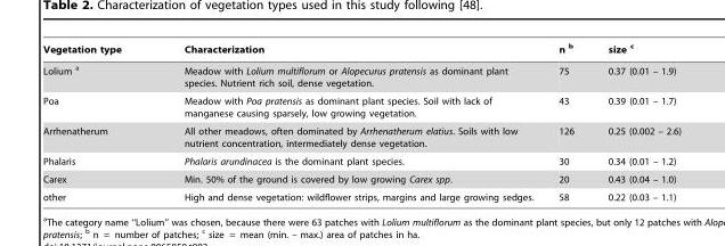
<table><thead><tr><td>Vegetation type</td><td>Characterization</td><td>n <sup>b</sup></td><td>size <sup>c</sup></td></tr></thead><tbody><tr><td>Lolium a</td><td>Meadow with Lolium multiflorum or Alopecurus pratensis as dominant plant species. Nutrient rich soil, dense vegetation.</td><td>75</td><td>0.37 (0.01 – 1.9)</td></tr><tr><td>Poa</td><td>Meadow with Poa pratensis as dominant plant species. Soil with lack of manganese causing sparsely, low growing vegetation.</td><td>43</td><td>0.39 (0.01 – 1.7)</td></tr><tr><td>Arrhenatherum</td><td>All other meadows, often dominated by Arrhenatherum elatius. Soils with low nutrient concentration, intermediately dense vegetation.</td><td>126</td><td>0.25 (0.002 – 2.6)</td></tr><tr><td>Phalaris</td><td>Phalaris arundinacea is the dominant plant species.</td><td>30</td><td>0.34 (0.01 – 1.2)</td></tr><tr><td>Carex</td><td>Min. 50% of the ground is covered by low growing Carex spp.</td><td>20</td><td>0.43 (0.04 – 1.0)</td></tr><tr><td>other</td><td>High and dense vegetation: wildflower strips, margins and large growing sedges.</td><td>58</td><td>0.22 (0.03 – 1.1)</td></tr></tbody></table>